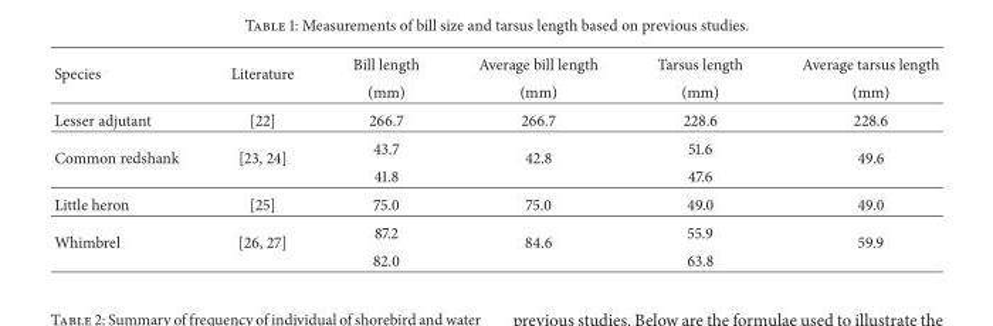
<table><thead><tr><td rowspan="2">Species</td><td rowspan="2">Literature</td><td rowspan="2">Bill length (mm)</td><td rowspan="2">Average bill length (mm)</td><td rowspan="2">Tarsus length (mm)</td><td rowspan="2">Average tarsus length (mm)</td></tr><tr></tr></thead><tbody><tr><td>Lesser adjutant</td><td>[22]</td><td>266.7</td><td>266.7</td><td>228.6</td><td>228.6</td></tr><tr><td rowspan="2">Common redshank</td><td rowspan="2">[23, 24]</td><td>43.7</td><td rowspan="2">42.8</td><td>51.6</td><td rowspan="2">49.6</td></tr><tr><td>41.8</td><td>47.6</td></tr><tr><td>Little heron</td><td>[25]</td><td>75.0</td><td>75.0</td><td>49.0</td><td>49.0</td></tr><tr><td rowspan="2">Whimbrel</td><td rowspan="2">[26, 27]</td><td>87.2</td><td rowspan="2">84.6</td><td>55.9</td><td rowspan="2">59.9</td></tr><tr><td>82.0</td><td>63.8</td></tr></tbody></table>